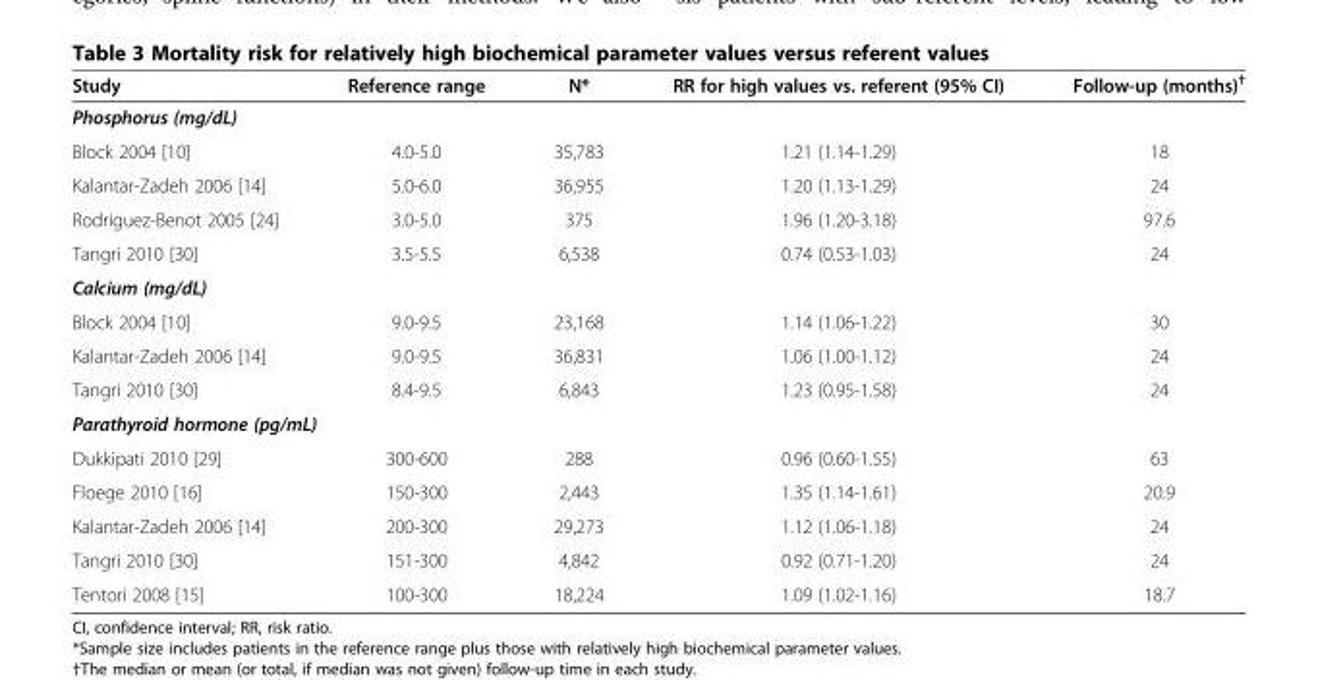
<table><thead><tr><td>Study</td><td>Reference range</td><td>N*</td><td>RR for high values vs. referent (95% CI)</td><td>Follow-up (months)<sup>†</sup></td></tr></thead><tbody><tr><td colspan="5">Phosphorus (mg/dL)</td></tr><tr><td>Block 2004 [10]</td><td>4.0-5.0</td><td>35,783</td><td>1.21 (1.14-1.29)</td><td>18</td></tr><tr><td>Kalantar-Zadeh 2006 [14]</td><td>5.0-6.0</td><td>36,955</td><td>1.20 (1.13-1.29)</td><td>24</td></tr><tr><td>Rodriguez-Benot 2005 [24]</td><td>3.0-5.0</td><td>375</td><td>1.96 (1.20-3.18)</td><td>97.6</td></tr><tr><td>Tangri 2010 [30]</td><td>3.5-5.5</td><td>6,538</td><td>0.74 (0.53-1.03)</td><td>24</td></tr><tr><td colspan="5">Calcium (mg/dL)</td></tr><tr><td>Block 2004 [10]</td><td>9.0-9.5</td><td>23,168</td><td>1.14 (1.06-1.22)</td><td>30</td></tr><tr><td>Kalantar-Zadeh 2006 [14]</td><td>9.0-9.5</td><td>36,831</td><td>1.06 (1.00-1.12)</td><td>24</td></tr><tr><td>Tangri 2010 [30]</td><td>8.4-9.5</td><td>6,843</td><td>1.23 (0.95-1.58)</td><td>24</td></tr><tr><td colspan="5">Parathyroid hormone (pg/mL)</td></tr><tr><td>Dukkipati 2010 [29]</td><td>300-600</td><td>288</td><td>0.96 (0.60-1.55)</td><td>63</td></tr><tr><td>Floege 2010 [16]</td><td>150-300</td><td>2,443</td><td>1.35 (1.14-1.61)</td><td>20.9</td></tr><tr><td>Kalantar-Zadeh 2006 [14]</td><td>200-300</td><td>29,273</td><td>1.12 (1.06-1.18)</td><td>24</td></tr><tr><td>Tangri 2010 [30]</td><td>151-300</td><td>4,842</td><td>0.92 (0.71-1.20)</td><td>24</td></tr><tr><td>Tentori 2008 [15]</td><td>100-300</td><td>18,224</td><td>1.09 (1.02-1.16)</td><td>18.7</td></tr></tbody></table>